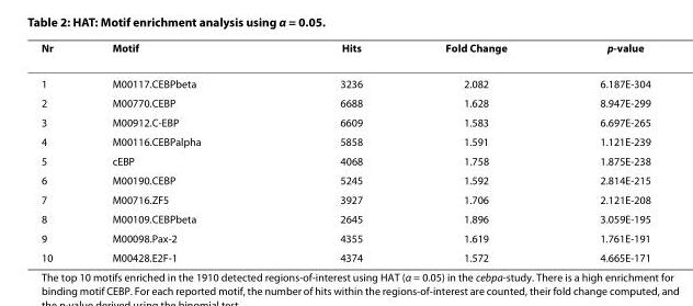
<table><thead><tr><td>Nr</td><td>Motif</td><td>Hits</td><td>Fold Change</td><td>p-value</td></tr></thead><tbody><tr><td>1</td><td>M00117.CEBPbeta</td><td>3236</td><td>2.082</td><td>6.187E-304</td></tr><tr><td>2</td><td>M00770.CEBP</td><td>6688</td><td>1.628</td><td>8.947E-299</td></tr><tr><td>3</td><td>M00912.C-EBP</td><td>6609</td><td>1.583</td><td>6.697E-265</td></tr><tr><td>4</td><td>M00116.CEBPalpha</td><td>5858</td><td>1.591</td><td>1.121E-239</td></tr><tr><td>5</td><td>cEBP</td><td>4068</td><td>1.758</td><td>1.875E-238</td></tr><tr><td>6</td><td>M00190.CEBP</td><td>5245</td><td>1.592</td><td>2.814E-215</td></tr><tr><td>7</td><td>M00716.ZF5</td><td>3927</td><td>1.706</td><td>2.121E-208</td></tr><tr><td>8</td><td>M00109.CEBPbeta</td><td>2645</td><td>1.896</td><td>3.059E-195</td></tr><tr><td>9</td><td>M00098.Pax-2</td><td>4355</td><td>1.619</td><td>1.761E-191</td></tr><tr><td>10</td><td>M00428.E2F-1</td><td>4374</td><td>1.572</td><td>4.665E-171</td></tr></tbody></table>